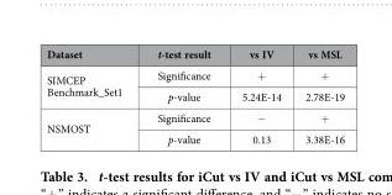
<table><thead><tr><td>Dataset</td><td>t-test result</td><td>vs IV</td><td>vs MSL</td></tr></thead><tbody><tr><td rowspan="2">SIMCEP Benchmark_Set1</td><td>Significance</td><td>+</td><td>+</td></tr><tr><td>p-value</td><td>5.24E-14</td><td>2.78E-19</td></tr><tr><td rowspan="2">NSMOST</td><td>Significance</td><td>−</td><td>+</td></tr><tr><td>p-value</td><td>0.13</td><td>3.38E-16</td></tr></tbody></table>